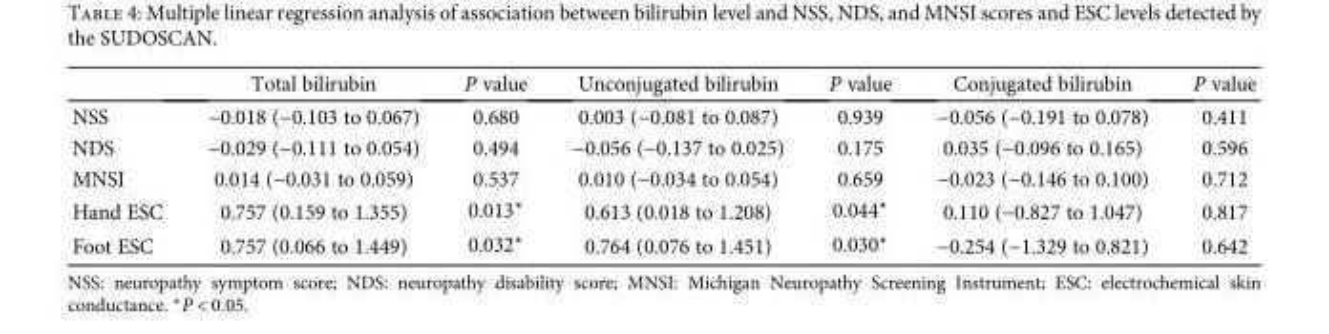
<table><thead><tr><td></td><td>Total bilirubin</td><td>P value</td><td>Unconjugated bilirubin</td><td>P value</td><td>Conjugated bilirubin</td><td>P value</td></tr></thead><tbody><tr><td>NSS</td><td>−0.018 (−0.103 to 0.067)</td><td>0.680</td><td>0.003 (−0.081 to 0.087)</td><td>0.939</td><td>−0.056 (−0.191 to 0.078)</td><td>0.411</td></tr><tr><td>NDS</td><td>−0.029 (−0.111 to 0.054)</td><td>0.494</td><td>−0.056 (−0.137 to 0.025)</td><td>0.175</td><td>0.035 (−0.096 to 0.165)</td><td>0.596</td></tr><tr><td>MNSI</td><td>0.014 (−0.031 to 0.059)</td><td>0.537</td><td>0.010 (−0.034 to 0.054)</td><td>0.659</td><td>−0.023 (−0.146 to 0.100)</td><td>0.712</td></tr><tr><td>Hand ESC</td><td>0.757 (0.159 to 1.355)</td><td>0.013∗</td><td>0.613 (0.018 to 1.208)</td><td>0.044∗</td><td>0.110 (−0.827 to 1.047)</td><td>0.817</td></tr><tr><td>Foot ESC</td><td>0.757 (0.066 to 1.449)</td><td>0.032∗</td><td>0.764 (0.076 to 1.451)</td><td>0.030∗</td><td>−0.254 (−1.329 to 0.821)</td><td>0.642</td></tr></tbody></table>